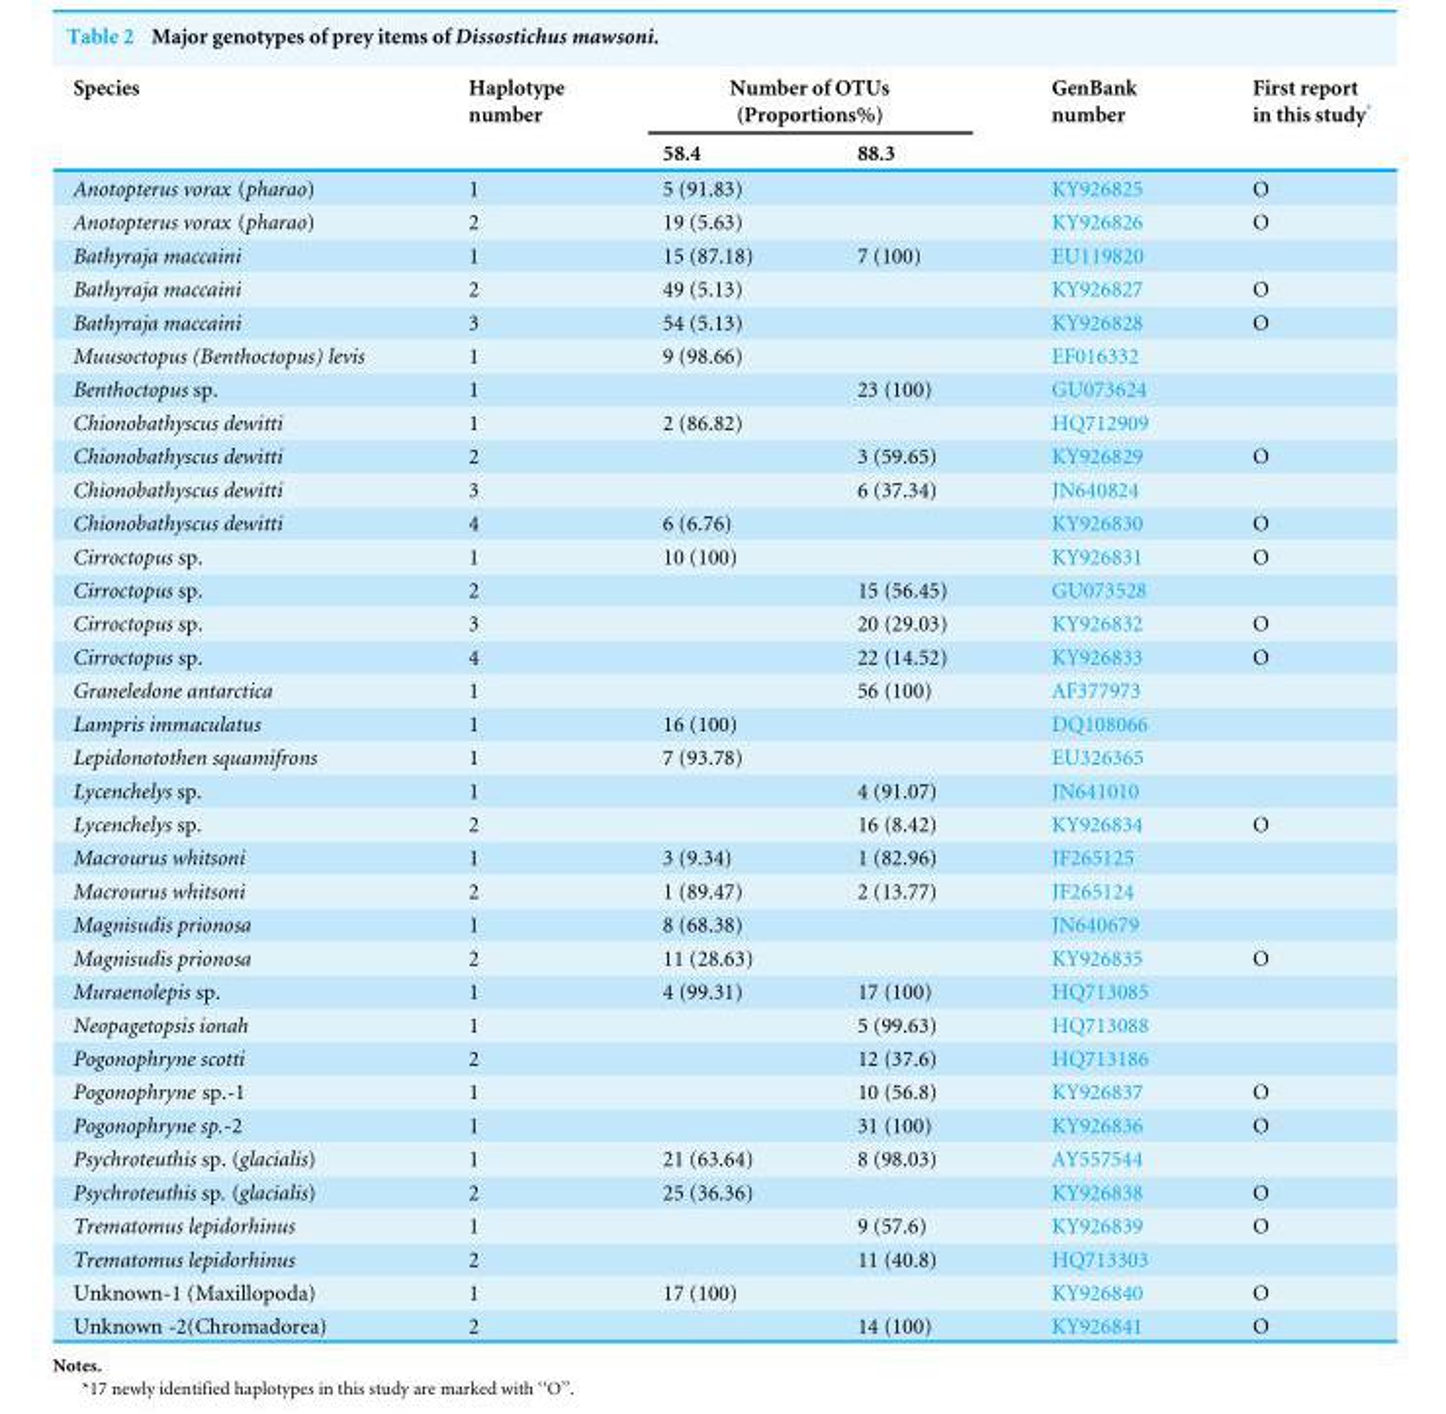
<table><thead><tr><td rowspan="2">Species</td><td rowspan="2">Haplotype number</td><td colspan="2">Number of OTUs (Proportions%)</td><td rowspan="2">GenBank number</td><td rowspan="2">First report in this study*</td></tr><tr><td>58.4</td><td>88.3</td></tr></thead><tbody><tr><td>Anotopterus vorax (pharao)</td><td>1</td><td>5 (91.83)</td><td></td><td>KY926825</td><td>O</td></tr><tr><td>Anotopterus vorax (pharao)</td><td>2</td><td>19 (5.63)</td><td></td><td>KY926826</td><td>O</td></tr><tr><td>Bathyraja maccaini</td><td>1</td><td>15 (87.18)</td><td>7 (100)</td><td>EU119820</td><td></td></tr><tr><td>Bathyraja maccaini</td><td>2</td><td>49 (5.13)</td><td></td><td>KY926827</td><td>O</td></tr><tr><td>Bathyraja maccaini</td><td>3</td><td>54 (5.13)</td><td></td><td>KY926828</td><td>O</td></tr><tr><td>Muusoctopus (Benthoctopus) levis</td><td>1</td><td>9 (98.66)</td><td></td><td>EF016332</td><td></td></tr><tr><td>Benthoctopus sp.</td><td>1</td><td></td><td>23 (100)</td><td>GU073624</td><td></td></tr><tr><td>Chionobathyscus dewitti</td><td>1</td><td>2 (86.82)</td><td></td><td>HQ712909</td><td></td></tr><tr><td>Chionobathyscus dewitti</td><td>2</td><td></td><td>3 (59.65)</td><td>KY926829</td><td>O</td></tr><tr><td>Chionobathyscus dewitti</td><td>3</td><td></td><td>6 (37.34)</td><td>JN640824</td><td></td></tr><tr><td>Chionobathyscus dewitti</td><td>4</td><td>6 (6.76)</td><td></td><td>KY926830</td><td>O</td></tr><tr><td>Cirroctopus sp.</td><td>1</td><td>10 (100)</td><td></td><td>KY926831</td><td>O</td></tr><tr><td>Cirroctopus sp.</td><td>2</td><td></td><td>15 (56.45)</td><td>GU073528</td><td></td></tr><tr><td>Cirroctopus sp.</td><td>3</td><td></td><td>20 (29.03)</td><td>KY926832</td><td>O</td></tr><tr><td>Cirroctopus sp.</td><td>4</td><td></td><td>22 (14.52)</td><td>KY926833</td><td>O</td></tr><tr><td>Graneledone antarctica</td><td>1</td><td></td><td>56 (100)</td><td>AF377973</td><td></td></tr><tr><td>Lampris immaculatus</td><td>1</td><td>16 (100)</td><td></td><td>DQ108066</td><td></td></tr><tr><td>Lepidonotothen squamifrons</td><td>1</td><td>7 (93.78)</td><td></td><td>EU326365</td><td></td></tr><tr><td>Lycenchelys sp.</td><td>1</td><td></td><td>4 (91.07)</td><td>JN641010</td><td></td></tr><tr><td>Lycenchelys sp.</td><td>2</td><td></td><td>16 (8.42)</td><td>KY926834</td><td>O</td></tr><tr><td>Macrourus whitsoni</td><td>1</td><td>3 (9.34)</td><td>1 (82.96)</td><td>JF265125</td><td></td></tr><tr><td>Macrourus whitsoni</td><td>2</td><td>1 (89.47)</td><td>2 (13.77)</td><td>JF265124</td><td></td></tr><tr><td>Magnisudis prionosa</td><td>1</td><td>8 (68.38)</td><td></td><td>JN640679</td><td></td></tr><tr><td>Magnisudis prionosa</td><td>2</td><td>11 (28.63)</td><td></td><td>KY926835</td><td>O</td></tr><tr><td>Muraenolepis sp.</td><td>1</td><td>4 (99.31)</td><td>17 (100)</td><td>HQ713085</td><td></td></tr><tr><td>Neopagetopsis ionah</td><td>1</td><td></td><td>5 (99.63)</td><td>HQ713088</td><td></td></tr><tr><td>Pogonophryne scotti</td><td>2</td><td></td><td>12 (37.6)</td><td>HQ713186</td><td></td></tr><tr><td>Pogonophryne sp.-1</td><td>1</td><td></td><td>10 (56.8)</td><td>KY926837</td><td>O</td></tr><tr><td>Pogonophryne sp.-2</td><td>1</td><td></td><td>31 (100)</td><td>KY926836</td><td>O</td></tr><tr><td>Psychroteuthis sp. (glacialis)</td><td>1</td><td>21 (63.64)</td><td>8 (98.03)</td><td>AY557544</td><td></td></tr><tr><td>Psychroteuthis sp. (glacialis)</td><td>2</td><td>25 (36.36)</td><td></td><td>KY926838</td><td>O</td></tr><tr><td>Trematomus lepidorhinus</td><td>1</td><td></td><td>9 (57.6)</td><td>KY926839</td><td>O</td></tr><tr><td>Trematomus lepidorhinus</td><td>2</td><td></td><td>11 (40.8)</td><td>HQ713303</td><td></td></tr><tr><td>Unknown-1 (Maxillopoda)</td><td>1</td><td>17 (100)</td><td></td><td>KY926840</td><td>O</td></tr><tr><td>Unknown -2(Chromadorea)</td><td>2</td><td></td><td>14 (100)</td><td>KY926841</td><td>O</td></tr></tbody></table>